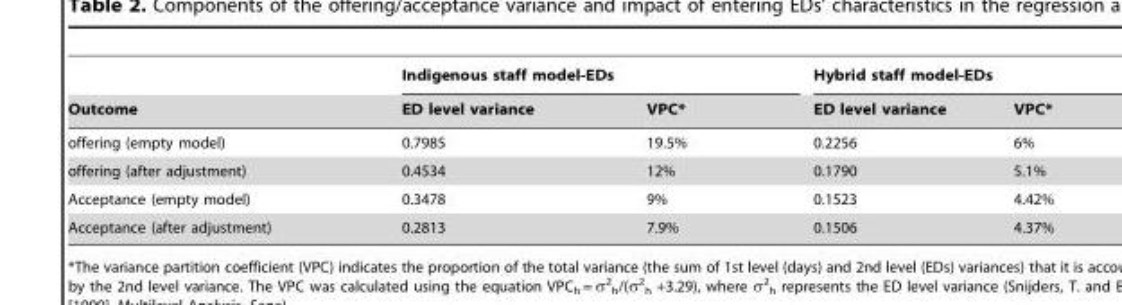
<table><thead><tr><td rowspan="2">Outcome</td><td colspan="2">Indigenous staff model-EDs</td><td colspan="2">Hybrid staff model-EDs</td></tr><tr><td>ED level variance</td><td>VPC*</td><td>ED level variance</td><td>VPC*</td></tr></thead><tbody><tr><td>offering (empty model)</td><td>0.7985</td><td>19.5%</td><td>0.2256</td><td>6%</td></tr><tr><td>offering (after adjustment)</td><td>0.4534</td><td>12%</td><td>0.1790</td><td>5.1%</td></tr><tr><td>Acceptance (empty model)</td><td>0.3478</td><td>9%</td><td>0.1523</td><td>4.42%</td></tr><tr><td>Acceptance (after adjustment)</td><td>0.2813</td><td>7.9%</td><td>0.1506</td><td>4.37%</td></tr></tbody></table>